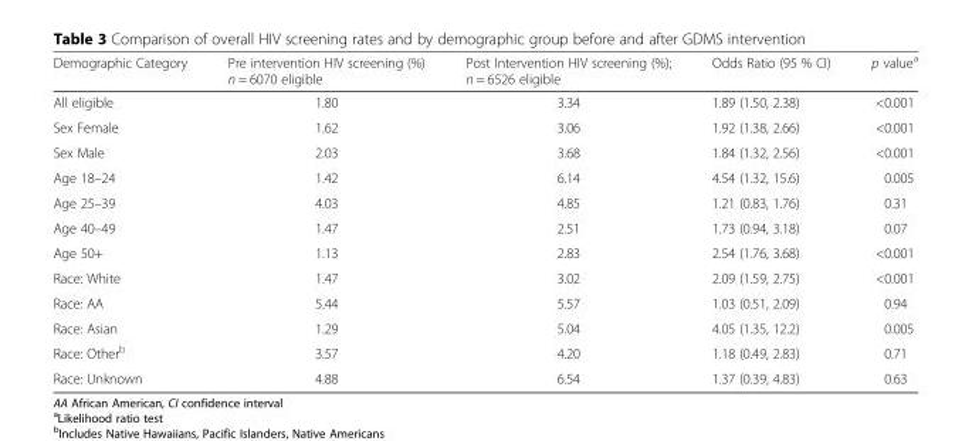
<table><thead><tr><td>Demographic Category</td><td>Pre intervention HIV screening (%) n = 6070 eligible</td><td>Post Intervention HIV screening (%); n = 6526 eligible</td><td>Odds Ratio (95 % CI)</td><td>p value<sup>a</sup></td></tr></thead><tbody><tr><td>All eligible</td><td>1.80</td><td>3.34</td><td>1.89 (1.50, 2.38)</td><td>&lt;0.001</td></tr><tr><td>Sex Female</td><td>1.62</td><td>3.06</td><td>1.92 (1.38, 2.66)</td><td>&lt;0.001</td></tr><tr><td>Sex Male</td><td>2.03</td><td>3.68</td><td>1.84 (1.32, 2.56)</td><td>&lt;0.001</td></tr><tr><td>Age 18–24</td><td>1.42</td><td>6.14</td><td>4.54 (1.32, 15.6)</td><td>0.005</td></tr><tr><td>Age 25–39</td><td>4.03</td><td>4.85</td><td>1.21 (0.83, 1.76)</td><td>0.31</td></tr><tr><td>Age 40–49</td><td>1.47</td><td>2.51</td><td>1.73 (0.94, 3.18)</td><td>0.07</td></tr><tr><td>Age 50+</td><td>1.13</td><td>2.83</td><td>2.54 (1.76, 3.68)</td><td>&lt;0.001</td></tr><tr><td>Race: White</td><td>1.47</td><td>3.02</td><td>2.09 (1.59, 2.75)</td><td>&lt;0.001</td></tr><tr><td>Race: AA</td><td>5.44</td><td>5.57</td><td>1.03 (0.51, 2.09)</td><td>0.94</td></tr><tr><td>Race: Asian</td><td>1.29</td><td>5.04</td><td>4.05 (1.35, 12.2)</td><td>0.005</td></tr><tr><td>Race: Other<sup>b</sup></td><td>3.57</td><td>4.20</td><td>1.18 (0.49, 2.83)</td><td>0.71</td></tr><tr><td>Race: Unknown</td><td>4.88</td><td>6.54</td><td>1.37 (0.39, 4.83)</td><td>0.63</td></tr></tbody></table>